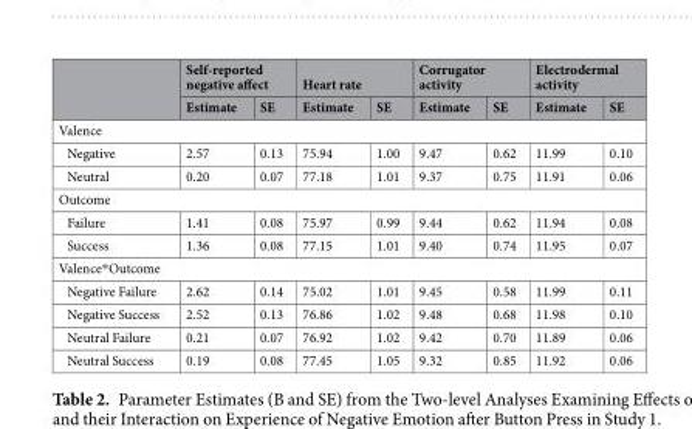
<table><thead><tr><td rowspan="2"></td><td colspan="2">Self-reported negative affect</td><td colspan="2">Heart rate</td><td colspan="2">Corrugator activity</td><td colspan="2">Electrodermal activity</td></tr><tr><td>Estimate</td><td>SE</td><td>Estimate</td><td>SE</td><td>Estimate</td><td>SE</td><td>Estimate</td><td>SE</td></tr></thead><tbody><tr><td colspan="9">Valence</td></tr><tr><td>Negative</td><td>2.57</td><td>0.13</td><td>75.94</td><td>1.00</td><td>9.47</td><td>0.62</td><td>11.99</td><td>0.10</td></tr><tr><td>Neutral</td><td>0.20</td><td>0.07</td><td>77.18</td><td>1.01</td><td>9.37</td><td>0.75</td><td>11.91</td><td>0.06</td></tr><tr><td colspan="9">Outcome</td></tr><tr><td>Failure</td><td>1.41</td><td>0.08</td><td>75.97</td><td>0.99</td><td>9.44</td><td>0.62</td><td>11.94</td><td>0.08</td></tr><tr><td>Success</td><td>1.36</td><td>0.08</td><td>77.15</td><td>1.01</td><td>9.40</td><td>0.74</td><td>11.95</td><td>0.07</td></tr><tr><td colspan="9">Valence*Outcome</td></tr><tr><td>Negative Failure</td><td>2.62</td><td>0.14</td><td>75.02</td><td>1.01</td><td>9.45</td><td>0.58</td><td>11.99</td><td>0.11</td></tr><tr><td>Negative Success</td><td>2.52</td><td>0.13</td><td>76.86</td><td>1.02</td><td>9.48</td><td>0.68</td><td>11.98</td><td>0.10</td></tr><tr><td>Neutral Failure</td><td>0.21</td><td>0.07</td><td>76.92</td><td>1.02</td><td>9.42</td><td>0.70</td><td>11.89</td><td>0.06</td></tr><tr><td>Neutral Success</td><td>0.19</td><td>0.08</td><td>77.45</td><td>1.05</td><td>9.32</td><td>0.85</td><td>11.92</td><td>0.06</td></tr></tbody></table>